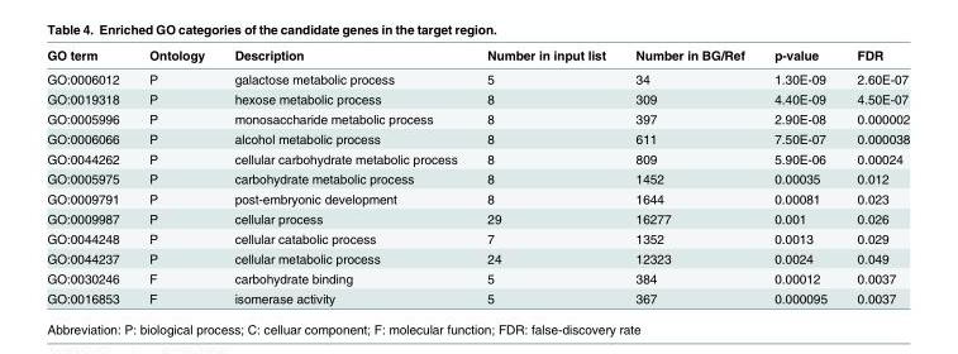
<table><thead><tr><td>GO term</td><td>Ontology</td><td>Description</td><td>Number in input list</td><td>Number in BG/Ref</td><td>p-value</td><td>FDR</td></tr></thead><tbody><tr><td>GO:0006012</td><td>P</td><td>galactose metabolic process</td><td>5</td><td>34</td><td>1.30E-09</td><td>2.60E-07</td></tr><tr><td>GO:0019318</td><td>P</td><td>hexose metabolic process</td><td>8</td><td>309</td><td>4.40E-09</td><td>4.50E-07</td></tr><tr><td>GO:0005996</td><td>P</td><td>monosaccharide metabolic process</td><td>8</td><td>397</td><td>2.90E-08</td><td>0.000002</td></tr><tr><td>GO:0006066</td><td>P</td><td>alcohol metabolic process</td><td>8</td><td>611</td><td>7.50E-07</td><td>0.000038</td></tr><tr><td>GO:0044262</td><td>P</td><td>cellular carbohydrate metabolic process</td><td>8</td><td>809</td><td>5.90E-06</td><td>0.00024</td></tr><tr><td>GO:0005975</td><td>P</td><td>carbohydrate metabolic process</td><td>8</td><td>1452</td><td>0.00035</td><td>0.012</td></tr><tr><td>GO:0009791</td><td>P</td><td>post-embryonic development</td><td>8</td><td>1644</td><td>0.00081</td><td>0.023</td></tr><tr><td>GO:0009987</td><td>P</td><td>cellular process</td><td>29</td><td>16277</td><td>0.001</td><td>0.026</td></tr><tr><td>GO:0044248</td><td>P</td><td>cellular catabolic process</td><td>7</td><td>1352</td><td>0.0013</td><td>0.029</td></tr><tr><td>GO:0044237</td><td>P</td><td>cellular metabolic process</td><td>24</td><td>12323</td><td>0.0024</td><td>0.049</td></tr><tr><td>GO:0030246</td><td>F</td><td>carbohydrate binding</td><td>5</td><td>384</td><td>0.00012</td><td>0.0037</td></tr><tr><td>GO:0016853</td><td>F</td><td>isomerase activity</td><td>5</td><td>367</td><td>0.000095</td><td>0.0037</td></tr></tbody></table>